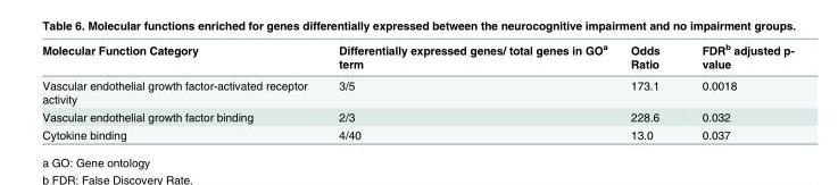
<table><thead><tr><td>Molecular Function Category</td><td>Differentially expressed genes/ total genes in GO<sup>a</sup> term</td><td>Odds Ratio</td><td>FDR<sup>b</sup> adjusted p- value</td></tr></thead><tbody><tr><td>Vascular endothelial growth factor-activated receptor activity</td><td>3/5</td><td>173.1</td><td>0.0018</td></tr><tr><td>Vascular endothelial growth factor binding</td><td>2/3</td><td>228.6</td><td>0.032</td></tr><tr><td>Cytokine binding</td><td>4/40</td><td>13.0</td><td>0.037</td></tr></tbody></table>